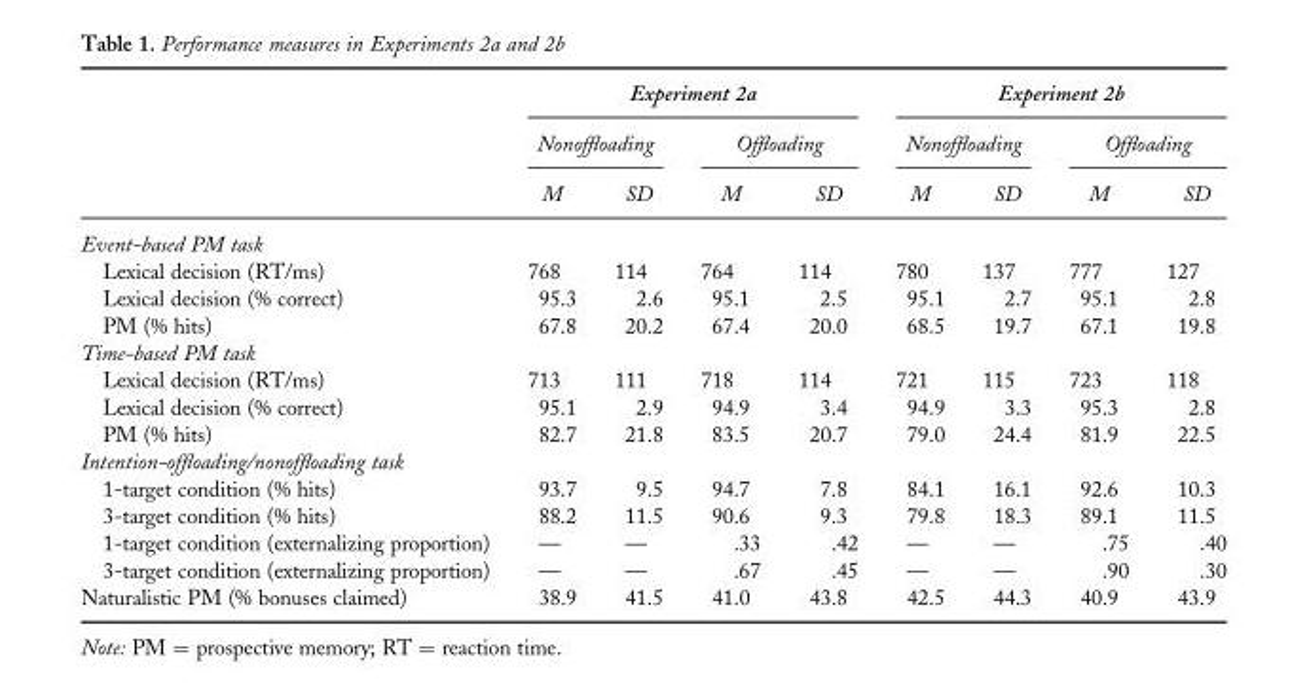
<table><thead><tr><td rowspan="3"></td><td colspan="4">Experiment 2a</td><td colspan="4">Experiment 2b</td></tr><tr><td colspan="2">Nonoffloading</td><td colspan="2">Offloading</td><td colspan="2">Nonoffloading</td><td colspan="2">Offloading</td></tr><tr><td>M</td><td>SD</td><td>M</td><td>SD</td><td>M</td><td>SD</td><td>M</td><td>SD</td></tr></thead><tbody><tr><td colspan="9">Event-based PM task</td></tr><tr><td>Lexical decision (RT/ms)</td><td>768</td><td>114</td><td>764</td><td>114</td><td>780</td><td>137</td><td>777</td><td>127</td></tr><tr><td>Lexical decision (% correct)</td><td>95.3</td><td>2.6</td><td>95.1</td><td>2.5</td><td>95.1</td><td>2.7</td><td>95.1</td><td>2.8</td></tr><tr><td>PM (% hits)</td><td>67.8</td><td>20.2</td><td>67.4</td><td>20.0</td><td>68.5</td><td>19.7</td><td>67.1</td><td>19.8</td></tr><tr><td colspan="9">Time-based PM task</td></tr><tr><td>Lexical decision (RT/ms)</td><td>713</td><td>111</td><td>718</td><td>114</td><td>721</td><td>115</td><td>723</td><td>118</td></tr><tr><td>Lexical decision (% correct)</td><td>95.1</td><td>2.9</td><td>94.9</td><td>3.4</td><td>94.9</td><td>3.3</td><td>95.3</td><td>2.8</td></tr><tr><td>PM (% hits)</td><td>82.7</td><td>21.8</td><td>83.5</td><td>20.7</td><td>79.0</td><td>24.4</td><td>81.9</td><td>22.5</td></tr><tr><td colspan="9">Intention-offloading/nonoffloading task</td></tr><tr><td>1-target condition (% hits)</td><td>93.7</td><td>9.5</td><td>94.7</td><td>7.8</td><td>84.1</td><td>16.1</td><td>92.6</td><td>10.3</td></tr><tr><td>3-target condition (% hits)</td><td>88.2</td><td>11.5</td><td>90.6</td><td>9.3</td><td>79.8</td><td>18.3</td><td>89.1</td><td>11.5</td></tr><tr><td>1-target condition (externalizing proportion)</td><td>—</td><td>—</td><td>.33</td><td>.42</td><td>—</td><td>—</td><td>.75</td><td>.40</td></tr><tr><td>3-target condition (externalizing proportion)</td><td>—</td><td>—</td><td>.67</td><td>.45</td><td>—</td><td>—</td><td>.90</td><td>.30</td></tr><tr><td>Naturalistic PM (% bonuses claimed)</td><td>38.9</td><td>41.5</td><td>41.0</td><td>43.8</td><td>42.5</td><td>44.3</td><td>40.9</td><td>43.9</td></tr></tbody></table>